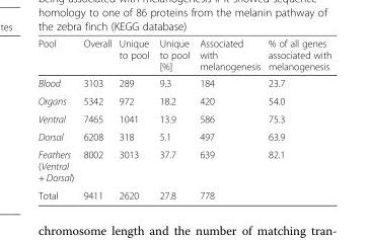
<table><thead><tr><td>Pool</td><td>Overall</td><td>Unique to pool</td><td>Unique to pool [%]</td><td>Associated with melanogenesis</td><td>% of all genes associated with melanogenesis</td></tr></thead><tbody><tr><td>Blood</td><td>3103</td><td>289</td><td>9.3</td><td>184</td><td>23.7</td></tr><tr><td>Organs</td><td>5342</td><td>972</td><td>18.2</td><td>420</td><td>54.0</td></tr><tr><td>Ventral</td><td>7465</td><td>1041</td><td>13.9</td><td>586</td><td>75.3</td></tr><tr><td>Dorsal</td><td>6208</td><td>318</td><td>5.1</td><td>497</td><td>63.9</td></tr><tr><td>Feathers (Ventral + Dorsal)</td><td>8002</td><td>3013</td><td>37.7</td><td>639</td><td>82.1</td></tr><tr><td>Total</td><td>9411</td><td>2620</td><td>27.8</td><td>778</td><td></td></tr></tbody></table>